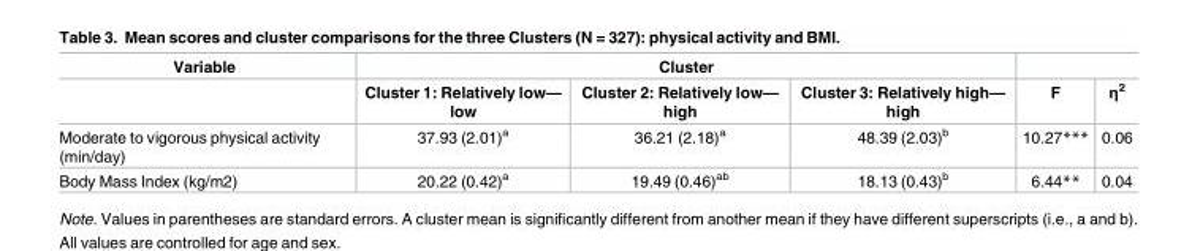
<table><thead><tr><td rowspan="2">Variable</td><td colspan="3">Cluster</td><td rowspan="2">F</td><td rowspan="2">η<sup>2</sup></td></tr><tr><td>Cluster 1: Relatively low— low</td><td>Cluster 2: Relatively low— high</td><td>Cluster 3: Relatively high— high</td></tr></thead><tbody><tr><td>Moderate to vigorous physical activity (min/day)</td><td>37.93 (2.01)<sup>a</sup></td><td>36.21 (2.18)<sup>a</sup></td><td>48.39 (2.03)<sup>b</sup></td><td>10.27***</td><td>0.06</td></tr><tr><td>Body Mass Index (kg/m2)</td><td>20.22 (0.42)<sup>a</sup></td><td>19.49 (0.46)<sup>ab</sup></td><td>18.13 (0.43)<sup>b</sup></td><td>6.44**</td><td>0.04</td></tr></tbody></table>